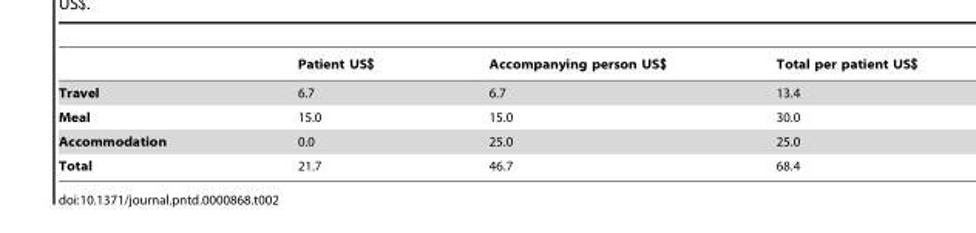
<table><thead><tr><td></td><td>Patient US$</td><td>Accompanying person US$</td><td>Total per patient US$</td></tr></thead><tbody><tr><td>Travel</td><td>6.7</td><td>6.7</td><td>13.4</td></tr><tr><td>Meal</td><td>15.0</td><td>15.0</td><td>30.0</td></tr><tr><td>Accommodation</td><td>0.0</td><td>25.0</td><td>25.0</td></tr><tr><td>Total</td><td>21.7</td><td>46.7</td><td>68.4</td></tr></tbody></table>